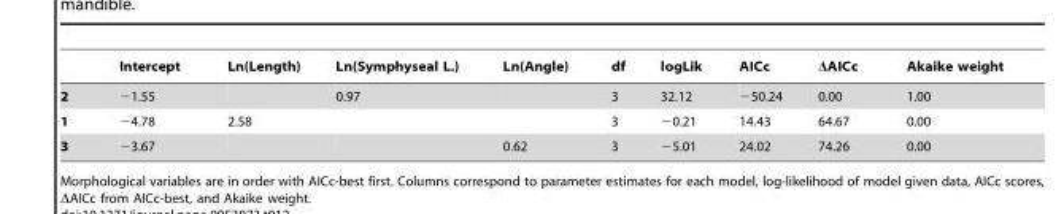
<table><thead><tr><td></td><td>Intercept</td><td>Ln(Length)</td><td>Ln(Symphyseal L.)</td><td>Ln(Angle)</td><td>df</td><td>logLik</td><td>AICc</td><td>ΔAICc</td><td>Akaike weight</td></tr></thead><tbody><tr><td>2</td><td>−1.55</td><td></td><td>0.97</td><td></td><td>3</td><td>32.12</td><td>−50.24</td><td>0.00</td><td>1.00</td></tr><tr><td>1</td><td>−4.78</td><td>2.58</td><td></td><td></td><td>3</td><td>−0.21</td><td>14.43</td><td>64.67</td><td>0.00</td></tr><tr><td>3</td><td>−3.67</td><td></td><td></td><td>0.62</td><td>3</td><td>−5.01</td><td>24.02</td><td>74.26</td><td>0.00</td></tr></tbody></table>